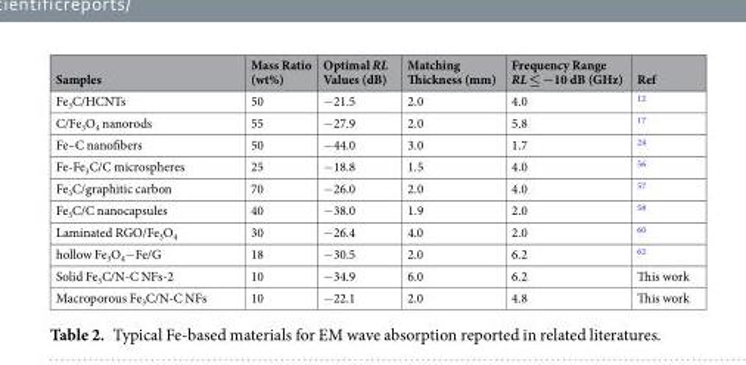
<table><thead><tr><td>Samples</td><td>Mass Ratio (wt%)</td><td>Optimal RL Values (dB)</td><td>Matching Thickness (mm)</td><td>Frequency Range RL ≤ −10 dB (GHz)</td><td>Ref</td></tr></thead><tbody><tr><td>Fe<sub>3</sub>C/HCNTs</td><td>50</td><td>−21.5</td><td>2.0</td><td>4.0</td><td><sup>12</sup></td></tr><tr><td>C/Fe<sub>3</sub>O<sub>4</sub> nanorods</td><td>55</td><td>−27.9</td><td>2.0</td><td>5.8</td><td><sup>17</sup></td></tr><tr><td>Fe–C nanofibers</td><td>50</td><td>−44.0</td><td>3.0</td><td>1.7</td><td><sup>24</sup></td></tr><tr><td>Fe-Fe<sub>3</sub>C/C microspheres</td><td>25</td><td>−18.8</td><td>1.5</td><td>4.0</td><td><sup>56</sup></td></tr><tr><td>Fe<sub>3</sub>C/graphitic carbon</td><td>70</td><td>−26.0</td><td>2.0</td><td>4.0</td><td><sup>57</sup></td></tr><tr><td>Fe<sub>3</sub>C/C nanocapsules</td><td>40</td><td>−38.0</td><td>1.9</td><td>2.0</td><td><sup>58</sup></td></tr><tr><td>Laminated RGO/Fe<sub>3</sub>O<sub>4</sub></td><td>30</td><td>−26.4</td><td>4.0</td><td>2.0</td><td><sup>60</sup></td></tr><tr><td>hollow Fe<sub>3</sub>O<sub>4</sub>−Fe/G</td><td>18</td><td>−30.5</td><td>2.0</td><td>6.2</td><td><sup>62</sup></td></tr><tr><td>Solid Fe<sub>3</sub>C/N-C NFs-2</td><td>10</td><td>−34.9</td><td>6.0</td><td>6.2</td><td>This work</td></tr><tr><td>Macroporous Fe<sub>3</sub>C/N-C NFs</td><td>10</td><td>−22.1</td><td>2.0</td><td>4.8</td><td>This work</td></tr></tbody></table>